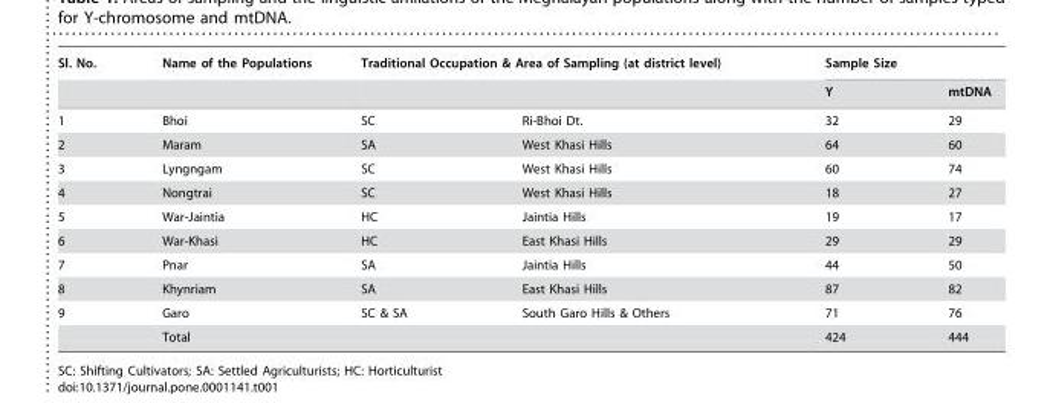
<table><thead><tr><td rowspan="2">Sl. No.</td><td rowspan="2">Name of the Populations</td><td colspan="2">Traditional Occupation &amp; Area of Sampling (at district level)</td><td colspan="2">Sample Size</td></tr><tr><td></td><td></td><td>Y</td><td>mtDNA</td></tr></thead><tbody><tr><td>1</td><td>Bhoi</td><td>SC</td><td>Ri-Bhoi Dt.</td><td>32</td><td>29</td></tr><tr><td>2</td><td>Maram</td><td>SA</td><td>West Khasi Hills</td><td>64</td><td>60</td></tr><tr><td>3</td><td>Lyngngam</td><td>SC</td><td>West Khasi Hills</td><td>60</td><td>74</td></tr><tr><td>4</td><td>Nongtrai</td><td>SC</td><td>West Khasi Hills</td><td>18</td><td>27</td></tr><tr><td>5</td><td>War-Jaintia</td><td>HC</td><td>Jaintia Hills</td><td>19</td><td>17</td></tr><tr><td>6</td><td>War-Khasi</td><td>HC</td><td>East Khasi Hills</td><td>29</td><td>29</td></tr><tr><td>7</td><td>Pnar</td><td>SA</td><td>Jaintia Hills</td><td>44</td><td>50</td></tr><tr><td>8</td><td>Khynriam</td><td>SA</td><td>East Khasi Hills</td><td>87</td><td>82</td></tr><tr><td rowspan="2">9</td><td>Garo</td><td>SC &amp; SA</td><td>South Garo Hills &amp; Others</td><td>71</td><td>76</td></tr><tr><td>Total</td><td></td><td></td><td>424</td><td>444</td></tr></tbody></table>